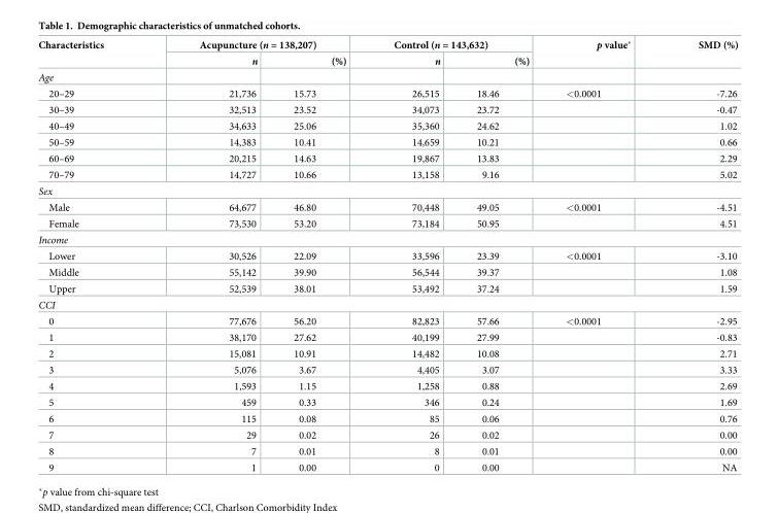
<table><thead><tr><td rowspan="2">Characteristics</td><td colspan="2">Acupuncture (n = 138,207)</td><td colspan="2">Control (n = 143,632)</td><td rowspan="2">p value*</td><td rowspan="2">SMD (%)</td></tr><tr><td>n</td><td>(%)</td><td>n</td><td>(%)</td></tr></thead><tbody><tr><td colspan="7">Age</td></tr><tr><td>20–29</td><td>21,736</td><td>15.73</td><td>26,515</td><td>18.46</td><td>&lt;0.0001</td><td>-7.26</td></tr><tr><td>30–39</td><td>32,513</td><td>23.52</td><td>34,073</td><td>23.72</td><td></td><td>-0.47</td></tr><tr><td>40–49</td><td>34,633</td><td>25.06</td><td>35,360</td><td>24.62</td><td></td><td>1.02</td></tr><tr><td>50–59</td><td>14,383</td><td>10.41</td><td>14,659</td><td>10.21</td><td></td><td>0.66</td></tr><tr><td>60–69</td><td>20,215</td><td>14.63</td><td>19,867</td><td>13.83</td><td></td><td>2.29</td></tr><tr><td>70–79</td><td>14,727</td><td>10.66</td><td>13,158</td><td>9.16</td><td></td><td>5.02</td></tr><tr><td colspan="7">Sex</td></tr><tr><td>Male</td><td>64,677</td><td>46.80</td><td>70,448</td><td>49.05</td><td>&lt;0.0001</td><td>-4.51</td></tr><tr><td>Female</td><td>73,530</td><td>53.20</td><td>73,184</td><td>50.95</td><td></td><td>4.51</td></tr><tr><td colspan="7">Income</td></tr><tr><td>Lower</td><td>30,526</td><td>22.09</td><td>33,596</td><td>23.39</td><td>&lt;0.0001</td><td>-3.10</td></tr><tr><td>Middle</td><td>55,142</td><td>39.90</td><td>56,544</td><td>39.37</td><td></td><td>1.08</td></tr><tr><td>Upper</td><td>52,539</td><td>38.01</td><td>53,492</td><td>37.24</td><td></td><td>1.59</td></tr><tr><td colspan="7">CCI</td></tr><tr><td>0</td><td>77,676</td><td>56.20</td><td>82,823</td><td>57.66</td><td>&lt;0.0001</td><td>-2.95</td></tr><tr><td>1</td><td>38,170</td><td>27.62</td><td>40,199</td><td>27.99</td><td></td><td>-0.83</td></tr><tr><td>2</td><td>15,081</td><td>10.91</td><td>14,482</td><td>10.08</td><td></td><td>2.71</td></tr><tr><td>3</td><td>5,076</td><td>3.67</td><td>4,405</td><td>3.07</td><td></td><td>3.33</td></tr><tr><td>4</td><td>1,593</td><td>1.15</td><td>1,258</td><td>0.88</td><td></td><td>2.69</td></tr><tr><td>5</td><td>459</td><td>0.33</td><td>346</td><td>0.24</td><td></td><td>1.69</td></tr><tr><td>6</td><td>115</td><td>0.08</td><td>85</td><td>0.06</td><td></td><td>0.76</td></tr><tr><td>7</td><td>29</td><td>0.02</td><td>26</td><td>0.02</td><td></td><td>0.00</td></tr><tr><td>8</td><td>7</td><td>0.01</td><td>8</td><td>0.01</td><td></td><td>0.00</td></tr><tr><td>9</td><td>1</td><td>0.00</td><td>0</td><td>0.00</td><td></td><td>NA</td></tr></tbody></table>